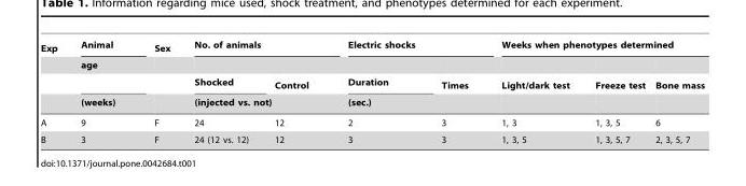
<table><thead><tr><td rowspan="4">Exp</td><td rowspan="4">Animal age (weeks)</td><td rowspan="4">Sex</td><td colspan="2">No. of animals</td><td colspan="2">Electric shocks</td><td colspan="3">Weeks when phenotypes determined</td></tr><tr><td rowspan="3">Shocked (injected vs. not)</td><td rowspan="3">Control</td><td rowspan="3">Duration (sec.)</td><td rowspan="3">Times</td><td rowspan="3">Light/dark test</td><td rowspan="3">Freeze test</td><td rowspan="3">Bone mass</td></tr><tr></tr><tr></tr></thead><tbody><tr><td>A</td><td>9</td><td>F</td><td>24</td><td>12</td><td>2</td><td>3</td><td>1, 3</td><td>1, 3, 5</td><td>6</td></tr><tr><td>B</td><td>3</td><td>F</td><td>24 (12 vs. 12)</td><td>12</td><td>3</td><td>3</td><td>1, 3, 5</td><td>1, 3, 5, 7</td><td>2, 3, 5, 7</td></tr></tbody></table>